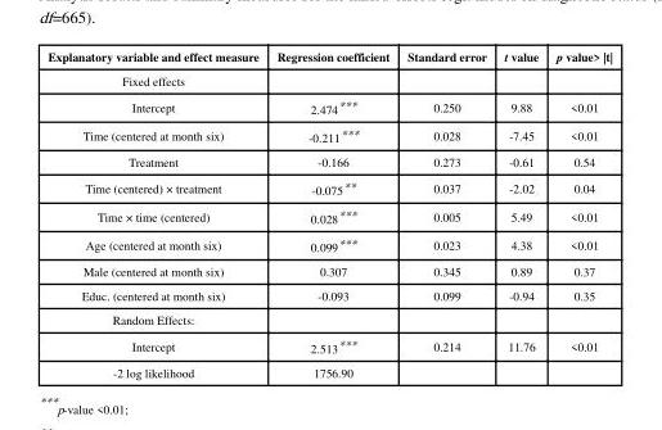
<table><thead><tr><td>Explanatory variable and effect measure</td><td>Regression coefficient</td><td>Standard error</td><td>t value</td><td>p value&gt; |t|</td></tr></thead><tbody><tr><td colspan="5">Fixed effects</td></tr><tr><td>Intercept</td><td>2.474***</td><td>0.250</td><td>9.88</td><td>&lt;0.01</td></tr><tr><td>Time (centered at month six)</td><td>-0.211***</td><td>0.028</td><td>-7.45</td><td>&lt;0.01</td></tr><tr><td>Treatment</td><td>-0.166</td><td>0.273</td><td>-0.61</td><td>0.54</td></tr><tr><td>Time (centered) × treatment</td><td>-0.075**</td><td>0.037</td><td>-2.02</td><td>0.04</td></tr><tr><td>Time × time (centered)</td><td>0.028***</td><td>0.005</td><td>5.49</td><td>&lt;0.01</td></tr><tr><td>Age (centered at month six)</td><td>0.099***</td><td>0.023</td><td>4.38</td><td>&lt;0.01</td></tr><tr><td>Male (centered at month six)</td><td>0.307</td><td>0.345</td><td>0.89</td><td>0.37</td></tr><tr><td>Educ. (centered at month six)</td><td>-0.093</td><td>0.099</td><td>-0.94</td><td>0.35</td></tr><tr><td colspan="5">Random Effects:</td></tr><tr><td>Intercept</td><td>2.513***</td><td>0.214</td><td>11.76</td><td>&lt;0.01</td></tr><tr><td>-2 log likelihood</td><td>1756.90</td><td></td><td></td><td></td></tr></tbody></table>